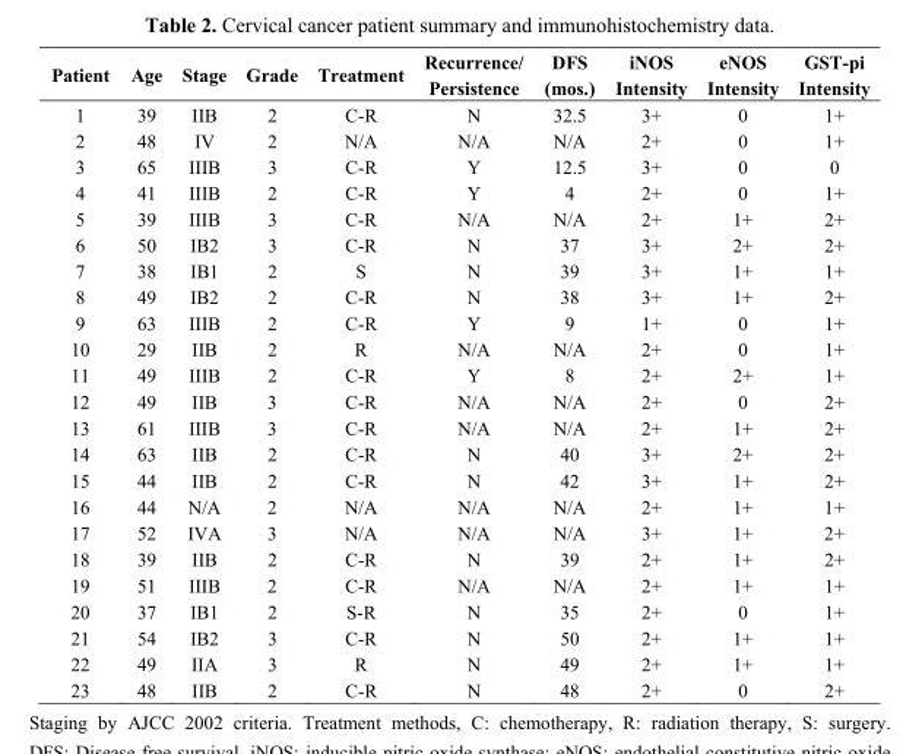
<table><thead><tr><td>Patient</td><td>Age</td><td>Stage</td><td>Grade</td><td>Treatment</td><td>Recurrence/ Persistence</td><td>DFS (mos.)</td><td>iNOS Intensity</td><td>eNOS Intensity</td><td>GST-pi Intensity</td></tr></thead><tbody><tr><td>1</td><td>39</td><td>IIB</td><td>2</td><td>C-R</td><td>N</td><td>32.5</td><td>3+</td><td>0</td><td>1+</td></tr><tr><td>2</td><td>48</td><td>IV</td><td>2</td><td>N/A</td><td>N/A</td><td>N/A</td><td>2+</td><td>0</td><td>1+</td></tr><tr><td>3</td><td>65</td><td>IIIB</td><td>3</td><td>C-R</td><td>Y</td><td>12.5</td><td>3+</td><td>0</td><td>0</td></tr><tr><td>4</td><td>41</td><td>IIIB</td><td>2</td><td>C-R</td><td>Y</td><td>4</td><td>2+</td><td>0</td><td>1+</td></tr><tr><td>5</td><td>39</td><td>IIIB</td><td>3</td><td>C-R</td><td>N/A</td><td>N/A</td><td>2+</td><td>1+</td><td>2+</td></tr><tr><td>6</td><td>50</td><td>IB2</td><td>3</td><td>C-R</td><td>N</td><td>37</td><td>3+</td><td>2+</td><td>2+</td></tr><tr><td>7</td><td>38</td><td>IB1</td><td>2</td><td>S</td><td>N</td><td>39</td><td>3+</td><td>1+</td><td>1+</td></tr><tr><td>8</td><td>49</td><td>IB2</td><td>2</td><td>C-R</td><td>N</td><td>38</td><td>3+</td><td>1+</td><td>2+</td></tr><tr><td>9</td><td>63</td><td>IIIB</td><td>2</td><td>C-R</td><td>Y</td><td>9</td><td>1+</td><td>0</td><td>1+</td></tr><tr><td>10</td><td>29</td><td>IIB</td><td>2</td><td>R</td><td>N/A</td><td>N/A</td><td>2+</td><td>0</td><td>1+</td></tr><tr><td>11</td><td>49</td><td>IIIB</td><td>2</td><td>C-R</td><td>Y</td><td>8</td><td>2+</td><td>2+</td><td>1+</td></tr><tr><td>12</td><td>49</td><td>IIB</td><td>3</td><td>C-R</td><td>N/A</td><td>N/A</td><td>2+</td><td>0</td><td>2+</td></tr><tr><td>13</td><td>61</td><td>IIIB</td><td>3</td><td>C-R</td><td>N/A</td><td>N/A</td><td>2+</td><td>1+</td><td>2+</td></tr><tr><td>14</td><td>63</td><td>IIB</td><td>2</td><td>C-R</td><td>N</td><td>40</td><td>3+</td><td>2+</td><td>2+</td></tr><tr><td>15</td><td>44</td><td>IIB</td><td>2</td><td>C-R</td><td>N</td><td>42</td><td>3+</td><td>1+</td><td>2+</td></tr><tr><td>16</td><td>44</td><td>N/A</td><td>2</td><td>N/A</td><td>N/A</td><td>N/A</td><td>2+</td><td>1+</td><td>1+</td></tr><tr><td>17</td><td>52</td><td>IVA</td><td>3</td><td>N/A</td><td>N/A</td><td>N/A</td><td>3+</td><td>1+</td><td>2+</td></tr><tr><td>18</td><td>39</td><td>IIB</td><td>2</td><td>C-R</td><td>N</td><td>39</td><td>2+</td><td>1+</td><td>2+</td></tr><tr><td>19</td><td>51</td><td>IIIB</td><td>2</td><td>C-R</td><td>N/A</td><td>N/A</td><td>2+</td><td>1+</td><td>1+</td></tr><tr><td>20</td><td>37</td><td>IB1</td><td>2</td><td>S-R</td><td>N</td><td>35</td><td>2+</td><td>0</td><td>1+</td></tr><tr><td>21</td><td>54</td><td>IB2</td><td>3</td><td>C-R</td><td>N</td><td>50</td><td>2+</td><td>1+</td><td>1+</td></tr><tr><td>22</td><td>49</td><td>IIA</td><td>3</td><td>R</td><td>N</td><td>49</td><td>2+</td><td>1+</td><td>1+</td></tr><tr><td>23</td><td>48</td><td>IIB</td><td>2</td><td>C-R</td><td>N</td><td>48</td><td>2+</td><td>0</td><td>2+</td></tr></tbody></table>